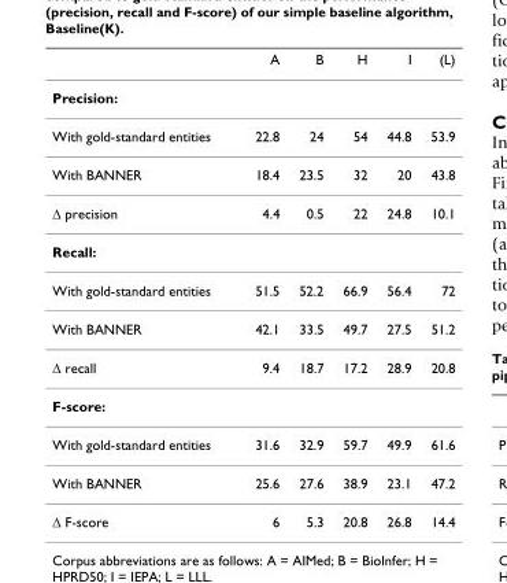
<table><thead><tr><td></td><td>A</td><td>B</td><td>H</td><td>I</td><td>(L)</td></tr></thead><tbody><tr><td colspan="6">Precision:</td></tr><tr><td>With gold-standard entities</td><td>22.8</td><td>24</td><td>54</td><td>44.8</td><td>53.9</td></tr><tr><td>With BANNER</td><td>18.4</td><td>23.5</td><td>32</td><td>20</td><td>43.8</td></tr><tr><td>Δ precision</td><td>4.4</td><td>0.5</td><td>22</td><td>24.8</td><td>10.1</td></tr><tr><td colspan="6">Recall:</td></tr><tr><td>With gold-standard entities</td><td>51.5</td><td>52.2</td><td>66.9</td><td>56.4</td><td>72</td></tr><tr><td>With BANNER</td><td>42.1</td><td>33.5</td><td>49.7</td><td>27.5</td><td>51.2</td></tr><tr><td>Δ recall</td><td>9.4</td><td>18.7</td><td>17.2</td><td>28.9</td><td>20.8</td></tr><tr><td colspan="6">F-score:</td></tr><tr><td>With gold-standard entities</td><td>31.6</td><td>32.9</td><td>59.7</td><td>49.9</td><td>61.6</td></tr><tr><td>With BANNER</td><td>25.6</td><td>27.6</td><td>38.9</td><td>23.1</td><td>47.2</td></tr><tr><td>Δ F-score</td><td>6</td><td>5.3</td><td>20.8</td><td>26.8</td><td>14.4</td></tr></tbody></table>